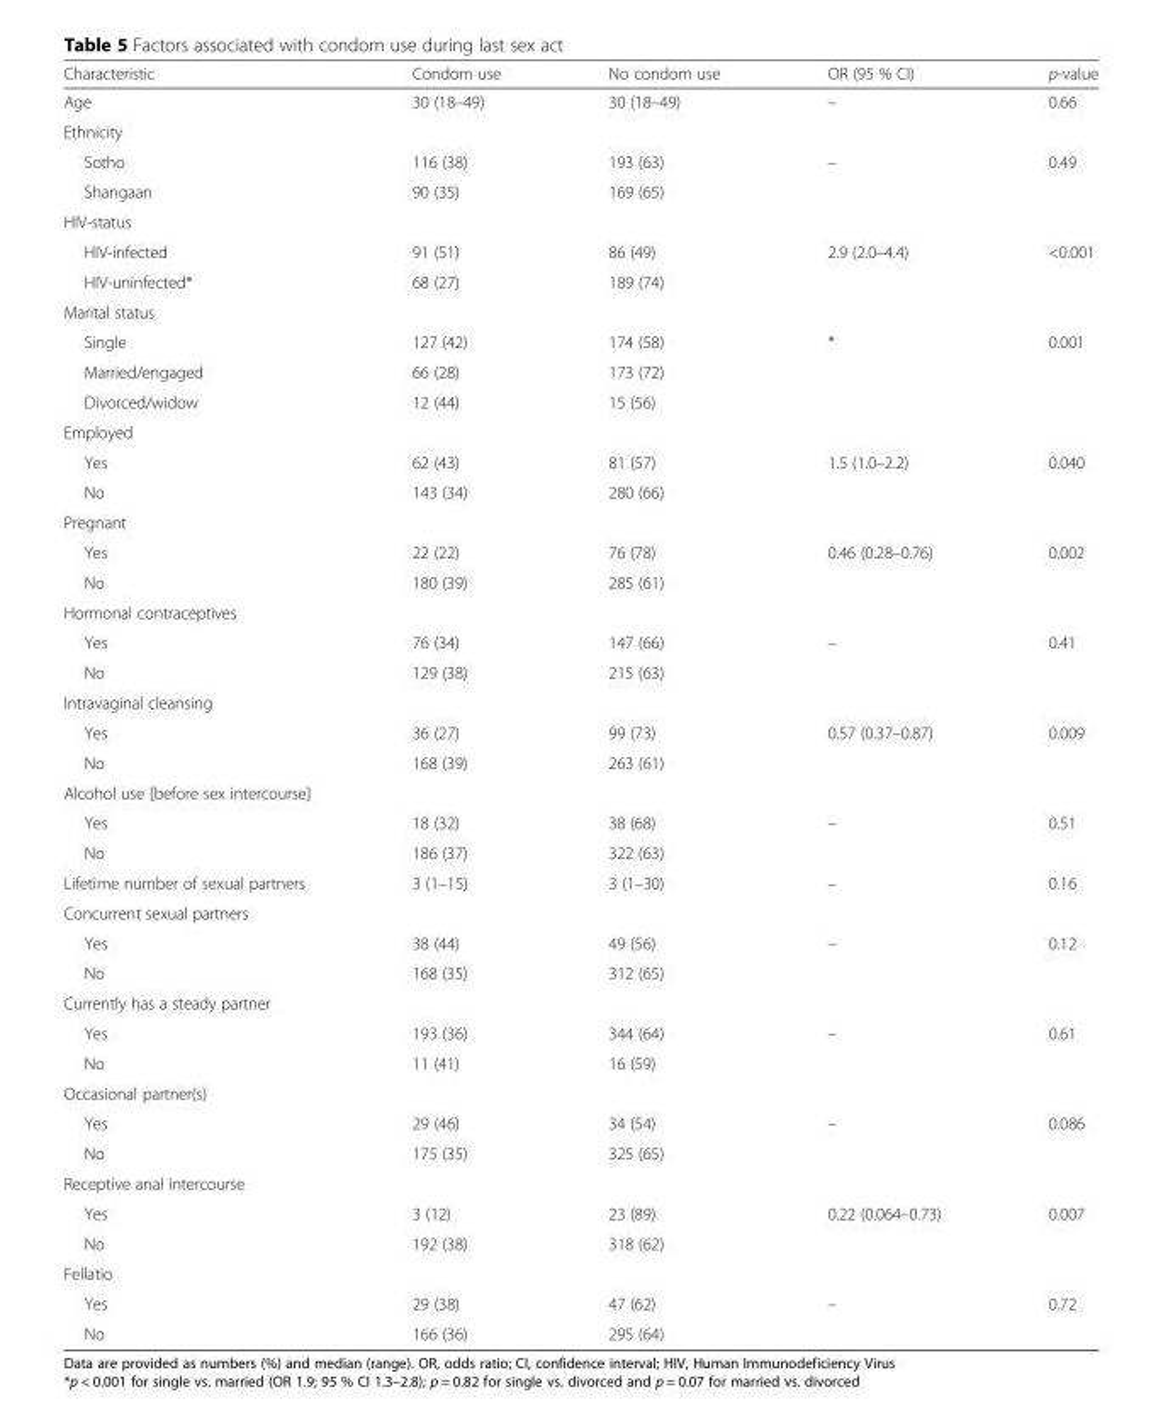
<table><thead><tr><td>Characteristic</td><td>Condom use</td><td>No condom use</td><td>OR (95 % CI)</td><td>p-value</td></tr></thead><tbody><tr><td>Age</td><td>30 (18–49)</td><td>30 (18–49)</td><td>–</td><td>0.66</td></tr><tr><td colspan="5">Ethnicity</td></tr><tr><td>Sotho</td><td>116 (38)</td><td>193 (63)</td><td>–</td><td>0.49</td></tr><tr><td>Shangaan</td><td>90 (35)</td><td>169 (65)</td><td></td><td></td></tr><tr><td colspan="5">HIV-status</td></tr><tr><td>HIV-infected</td><td>91 (51)</td><td>86 (49)</td><td>2.9 (2.0–4.4)</td><td>&lt;0.001</td></tr><tr><td>HIV-uninfected*</td><td>68 (27)</td><td>189 (74)</td><td></td><td></td></tr><tr><td colspan="5">Marital status</td></tr><tr><td>Single</td><td>127 (42)</td><td>174 (58)</td><td>*</td><td>0.001</td></tr><tr><td>Married/engaged</td><td>66 (28)</td><td>173 (72)</td><td></td><td></td></tr><tr><td>Divorced/widow</td><td>12 (44)</td><td>15 (56)</td><td></td><td></td></tr><tr><td colspan="5">Employed</td></tr><tr><td>Yes</td><td>62 (43)</td><td>81 (57)</td><td>1.5 (1.0–2.2)</td><td>0.040</td></tr><tr><td>No</td><td>143 (34)</td><td>280 (66)</td><td></td><td></td></tr><tr><td colspan="5">Pregnant</td></tr><tr><td>Yes</td><td>22 (22)</td><td>76 (78)</td><td>0.46 (0.28–0.76)</td><td>0.002</td></tr><tr><td>No</td><td>180 (39)</td><td>285 (61)</td><td></td><td></td></tr><tr><td colspan="5">Hormonal contraceptives</td></tr><tr><td>Yes</td><td>76 (34)</td><td>147 (66)</td><td>–</td><td>0.41</td></tr><tr><td>No</td><td>129 (38)</td><td>215 (63)</td><td></td><td></td></tr><tr><td colspan="5">Intravaginal cleansing</td></tr><tr><td>Yes</td><td>36 (27)</td><td>99 (73)</td><td>0.57 (0.37–0.87)</td><td>0.009</td></tr><tr><td>No</td><td>168 (39)</td><td>263 (61)</td><td></td><td></td></tr><tr><td colspan="5">Alcohol use [before sex intercourse]</td></tr><tr><td>Yes</td><td>18 (32)</td><td>38 (68)</td><td>–</td><td>0.51</td></tr><tr><td>No</td><td>186 (37)</td><td>322 (63)</td><td></td><td></td></tr><tr><td>Lifetime number of sexual partners</td><td>3 (1–15)</td><td>3 (1–30)</td><td>–</td><td>0.16</td></tr><tr><td colspan="5">Concurrent sexual partners</td></tr><tr><td>Yes</td><td>38 (44)</td><td>49 (56)</td><td>–</td><td>0.12</td></tr><tr><td>No</td><td>168 (35)</td><td>312 (65)</td><td></td><td></td></tr><tr><td colspan="5">Currently has a steady partner</td></tr><tr><td>Yes</td><td>193 (36)</td><td>344 (64)</td><td>–</td><td>0.61</td></tr><tr><td>No</td><td>11 (41)</td><td>16 (59)</td><td></td><td></td></tr><tr><td colspan="5">Occasional partner(s)</td></tr><tr><td>Yes</td><td>29 (46)</td><td>34 (54)</td><td>–</td><td>0.086</td></tr><tr><td>No</td><td>175 (35)</td><td>325 (65)</td><td></td><td></td></tr><tr><td colspan="5">Receptive anal intercourse</td></tr><tr><td>Yes</td><td>3 (12)</td><td>23 (89)</td><td>0.22 (0.064–0.73)</td><td>0.007</td></tr><tr><td>No</td><td>192 (38)</td><td>318 (62)</td><td></td><td></td></tr><tr><td colspan="5">Fellatio</td></tr><tr><td>Yes</td><td>29 (38)</td><td>47 (62)</td><td>–</td><td>0.72</td></tr><tr><td>No</td><td>166 (36)</td><td>295 (64)</td><td></td><td></td></tr></tbody></table>